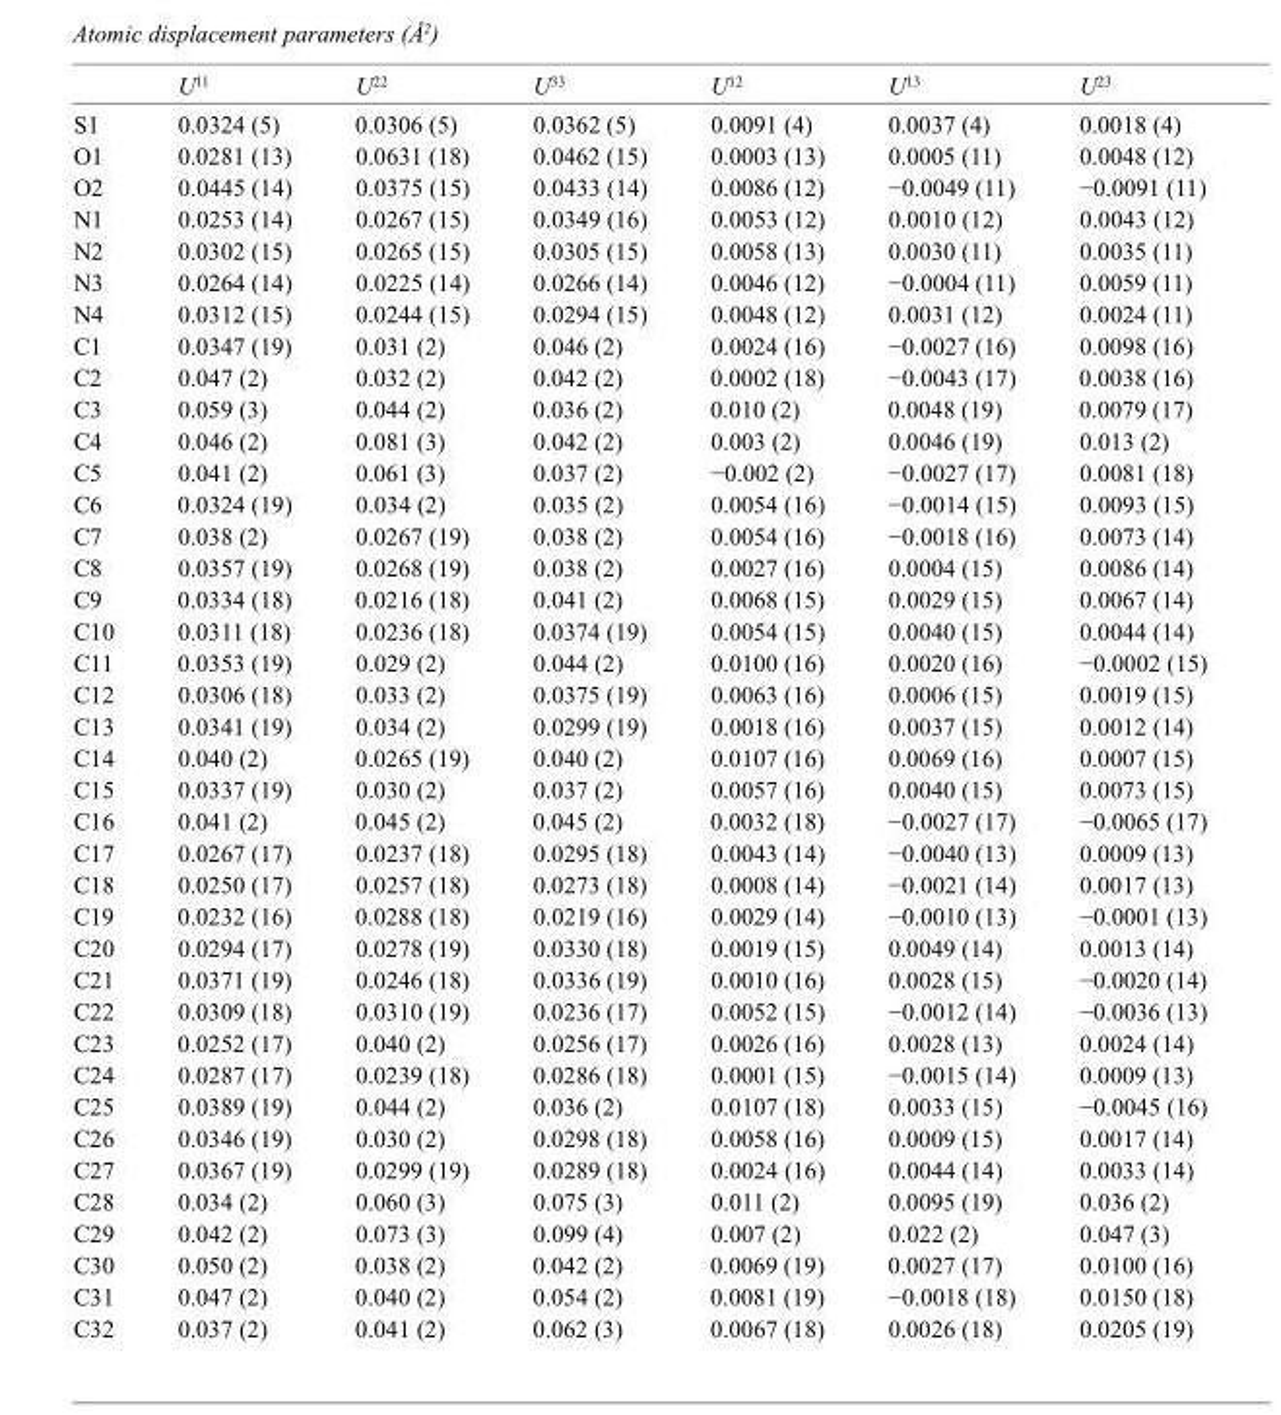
<table><thead><tr><td></td><td>U<sup>11</sup></td><td>U<sup>22</sup></td><td>U<sup>33</sup></td><td>U<sup>12</sup></td><td>U<sup>13</sup></td><td>U<sup>23</sup></td></tr></thead><tbody><tr><td>S1</td><td>0.0324 (5)</td><td>0.0306 (5)</td><td>0.0362 (5)</td><td>0.0091 (4)</td><td>0.0037 (4)</td><td>0.0018 (4)</td></tr><tr><td>O1</td><td>0.0281 (13)</td><td>0.0631 (18)</td><td>0.0462 (15)</td><td>0.0003 (13)</td><td>0.0005 (11)</td><td>0.0048 (12)</td></tr><tr><td>O2</td><td>0.0445 (14)</td><td>0.0375 (15)</td><td>0.0433 (14)</td><td>0.0086 (12)</td><td>−0.0049 (11)</td><td>−0.0091 (11)</td></tr><tr><td>N1</td><td>0.0253 (14)</td><td>0.0267 (15)</td><td>0.0349 (16)</td><td>0.0053 (12)</td><td>0.0010 (12)</td><td>0.0043 (12)</td></tr><tr><td>N2</td><td>0.0302 (15)</td><td>0.0265 (15)</td><td>0.0305 (15)</td><td>0.0058 (13)</td><td>0.0030 (11)</td><td>0.0035 (11)</td></tr><tr><td>N3</td><td>0.0264 (14)</td><td>0.0225 (14)</td><td>0.0266 (14)</td><td>0.0046 (12)</td><td>−0.0004 (11)</td><td>0.0059 (11)</td></tr><tr><td>N4</td><td>0.0312 (15)</td><td>0.0244 (15)</td><td>0.0294 (15)</td><td>0.0048 (12)</td><td>0.0031 (12)</td><td>0.0024 (11)</td></tr><tr><td>C1</td><td>0.0347 (19)</td><td>0.031 (2)</td><td>0.046 (2)</td><td>0.0024 (16)</td><td>−0.0027 (16)</td><td>0.0098 (16)</td></tr><tr><td>C2</td><td>0.047 (2)</td><td>0.032 (2)</td><td>0.042 (2)</td><td>0.0002 (18)</td><td>−0.0043 (17)</td><td>0.0038 (16)</td></tr><tr><td>C3</td><td>0.059 (3)</td><td>0.044 (2)</td><td>0.036 (2)</td><td>0.010 (2)</td><td>0.0048 (19)</td><td>0.0079 (17)</td></tr><tr><td>C4</td><td>0.046 (2)</td><td>0.081 (3)</td><td>0.042 (2)</td><td>0.003 (2)</td><td>0.0046 (19)</td><td>0.013 (2)</td></tr><tr><td>C5</td><td>0.041 (2)</td><td>0.061 (3)</td><td>0.037 (2)</td><td>−0.002 (2)</td><td>−0.0027 (17)</td><td>0.0081 (18)</td></tr><tr><td>C6</td><td>0.0324 (19)</td><td>0.034 (2)</td><td>0.035 (2)</td><td>0.0054 (16)</td><td>−0.0014 (15)</td><td>0.0093 (15)</td></tr><tr><td>C7</td><td>0.038 (2)</td><td>0.0267 (19)</td><td>0.038 (2)</td><td>0.0054 (16)</td><td>−0.0018 (16)</td><td>0.0073 (14)</td></tr><tr><td>C8</td><td>0.0357 (19)</td><td>0.0268 (19)</td><td>0.038 (2)</td><td>0.0027 (16)</td><td>0.0004 (15)</td><td>0.0086 (14)</td></tr><tr><td>C9</td><td>0.0334 (18)</td><td>0.0216 (18)</td><td>0.041 (2)</td><td>0.0068 (15)</td><td>0.0029 (15)</td><td>0.0067 (14)</td></tr><tr><td>C10</td><td>0.0311 (18)</td><td>0.0236 (18)</td><td>0.0374 (19)</td><td>0.0054 (15)</td><td>0.0040 (15)</td><td>0.0044 (14)</td></tr><tr><td>C11</td><td>0.0353 (19)</td><td>0.029 (2)</td><td>0.044 (2)</td><td>0.0100 (16)</td><td>0.0020 (16)</td><td>−0.0002 (15)</td></tr><tr><td>C12</td><td>0.0306 (18)</td><td>0.033 (2)</td><td>0.0375 (19)</td><td>0.0063 (16)</td><td>0.0006 (15)</td><td>0.0019 (15)</td></tr><tr><td>C13</td><td>0.0341 (19)</td><td>0.034 (2)</td><td>0.0299 (19)</td><td>0.0018 (16)</td><td>0.0037 (15)</td><td>0.0012 (14)</td></tr><tr><td>C14</td><td>0.040 (2)</td><td>0.0265 (19)</td><td>0.040 (2)</td><td>0.0107 (16)</td><td>0.0069 (16)</td><td>0.0007 (15)</td></tr><tr><td>C15</td><td>0.0337 (19)</td><td>0.030 (2)</td><td>0.037 (2)</td><td>0.0057 (16)</td><td>0.0040 (15)</td><td>0.0073 (15)</td></tr><tr><td>C16</td><td>0.041 (2)</td><td>0.045 (2)</td><td>0.045 (2)</td><td>0.0032 (18)</td><td>−0.0027 (17)</td><td>−0.0065 (17)</td></tr><tr><td>C17</td><td>0.0267 (17)</td><td>0.0237 (18)</td><td>0.0295 (18)</td><td>0.0043 (14)</td><td>−0.0040 (13)</td><td>0.0009 (13)</td></tr><tr><td>C18</td><td>0.0250 (17)</td><td>0.0257 (18)</td><td>0.0273 (18)</td><td>0.0008 (14)</td><td>−0.0021 (14)</td><td>0.0017 (13)</td></tr><tr><td>C19</td><td>0.0232 (16)</td><td>0.0288 (18)</td><td>0.0219 (16)</td><td>0.0029 (14)</td><td>−0.0010 (13)</td><td>−0.0001 (13)</td></tr><tr><td>C20</td><td>0.0294 (17)</td><td>0.0278 (19)</td><td>0.0330 (18)</td><td>0.0019 (15)</td><td>0.0049 (14)</td><td>0.0013 (14)</td></tr><tr><td>C21</td><td>0.0371 (19)</td><td>0.0246 (18)</td><td>0.0336 (19)</td><td>0.0010 (16)</td><td>0.0028 (15)</td><td>−0.0020 (14)</td></tr><tr><td>C22</td><td>0.0309 (18)</td><td>0.0310 (19)</td><td>0.0236 (17)</td><td>0.0052 (15)</td><td>−0.0012 (14)</td><td>−0.0036 (13)</td></tr><tr><td>C23</td><td>0.0252 (17)</td><td>0.040 (2)</td><td>0.0256 (17)</td><td>0.0026 (16)</td><td>0.0028 (13)</td><td>0.0024 (14)</td></tr><tr><td>C24</td><td>0.0287 (17)</td><td>0.0239 (18)</td><td>0.0286 (18)</td><td>0.0001 (15)</td><td>−0.0015 (14)</td><td>0.0009 (13)</td></tr><tr><td>C25</td><td>0.0389 (19)</td><td>0.044 (2)</td><td>0.036 (2)</td><td>0.0107 (18)</td><td>0.0033 (15)</td><td>−0.0045 (16)</td></tr><tr><td>C26</td><td>0.0346 (19)</td><td>0.030 (2)</td><td>0.0298 (18)</td><td>0.0058 (16)</td><td>0.0009 (15)</td><td>0.0017 (14)</td></tr><tr><td>C27</td><td>0.0367 (19)</td><td>0.0299 (19)</td><td>0.0289 (18)</td><td>0.0024 (16)</td><td>0.0044 (14)</td><td>0.0033 (14)</td></tr><tr><td>C28</td><td>0.034 (2)</td><td>0.060 (3)</td><td>0.075 (3)</td><td>0.011 (2)</td><td>0.0095 (19)</td><td>0.036 (2)</td></tr><tr><td>C29</td><td>0.042 (2)</td><td>0.073 (3)</td><td>0.099 (4)</td><td>0.007 (2)</td><td>0.022 (2)</td><td>0.047 (3)</td></tr><tr><td>C30</td><td>0.050 (2)</td><td>0.038 (2)</td><td>0.042 (2)</td><td>0.0069 (19)</td><td>0.0027 (17)</td><td>0.0100 (16)</td></tr><tr><td>C31</td><td>0.047 (2)</td><td>0.040 (2)</td><td>0.054 (2)</td><td>0.0081 (19)</td><td>−0.0018 (18)</td><td>0.0150 (18)</td></tr><tr><td>C32</td><td>0.037 (2)</td><td>0.041 (2)</td><td>0.062 (3)</td><td>0.0067 (18)</td><td>0.0026 (18)</td><td>0.0205 (19)</td></tr></tbody></table>